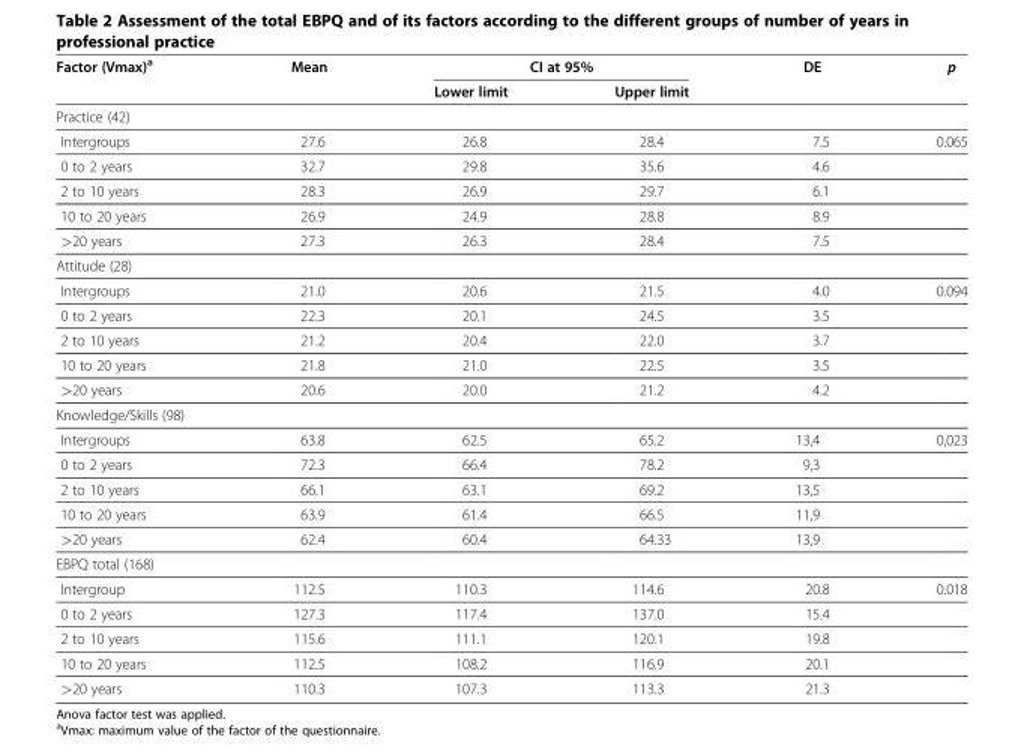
<table><thead><tr><td rowspan="2">Factor (Vmax)<sup>a</sup></td><td rowspan="2">Mean</td><td colspan="2">CI at 95%</td><td rowspan="2">DE</td><td rowspan="2">p</td></tr><tr><td>Lower limit</td><td>Upper limit</td></tr></thead><tbody><tr><td colspan="6">Practice (42)</td></tr><tr><td>Intergroups</td><td>27.6</td><td>26.8</td><td>28.4</td><td>7.5</td><td>0.065</td></tr><tr><td>0 to 2 years</td><td>32.7</td><td>29.8</td><td>35.6</td><td>4.6</td><td></td></tr><tr><td>2 to 10 years</td><td>28.3</td><td>26.9</td><td>29.7</td><td>6.1</td><td></td></tr><tr><td>10 to 20 years</td><td>26.9</td><td>24.9</td><td>28.8</td><td>8.9</td><td></td></tr><tr><td>&gt;20 years</td><td>27.3</td><td>26.3</td><td>28.4</td><td>7.5</td><td></td></tr><tr><td colspan="6">Attitude (28)</td></tr><tr><td>Intergroups</td><td>21.0</td><td>20.6</td><td>21.5</td><td>4.0</td><td>0.094</td></tr><tr><td>0 to 2 years</td><td>22.3</td><td>20.1</td><td>24.5</td><td>3.5</td><td></td></tr><tr><td>2 to 10 years</td><td>21.2</td><td>20.4</td><td>22.0</td><td>3.7</td><td></td></tr><tr><td>10 to 20 years</td><td>21.8</td><td>21.0</td><td>22.5</td><td>3.5</td><td></td></tr><tr><td>&gt;20 years</td><td>20.6</td><td>20.0</td><td>21.2</td><td>4.2</td><td></td></tr><tr><td colspan="6">Knowledge/Skills (98)</td></tr><tr><td>Intergroups</td><td>63.8</td><td>62.5</td><td>65.2</td><td>13,4</td><td>0,023</td></tr><tr><td>0 to 2 years</td><td>72.3</td><td>66.4</td><td>78.2</td><td>9,3</td><td></td></tr><tr><td>2 to 10 years</td><td>66.1</td><td>63.1</td><td>69.2</td><td>13,5</td><td></td></tr><tr><td>10 to 20 years</td><td>63.9</td><td>61.4</td><td>66.5</td><td>11,9</td><td></td></tr><tr><td>&gt;20 years</td><td>62.4</td><td>60.4</td><td>64.33</td><td>13,9</td><td></td></tr><tr><td colspan="6">EBPQ total (168)</td></tr><tr><td>Intergroup</td><td>112.5</td><td>110.3</td><td>114.6</td><td>20.8</td><td>0.018</td></tr><tr><td>0 to 2 years</td><td>127.3</td><td>117.4</td><td>137.0</td><td>15.4</td><td></td></tr><tr><td>2 to 10 years</td><td>115.6</td><td>111.1</td><td>120.1</td><td>19.8</td><td></td></tr><tr><td>10 to 20 years</td><td>112.5</td><td>108.2</td><td>116.9</td><td>20.1</td><td></td></tr><tr><td>&gt;20 years</td><td>110.3</td><td>107.3</td><td>113.3</td><td>21.3</td><td></td></tr></tbody></table>